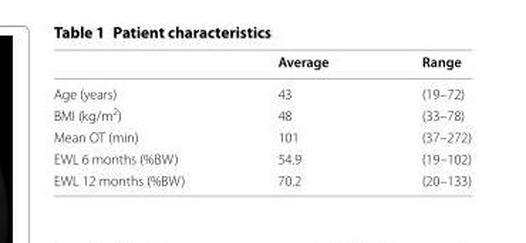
<table><thead><tr><td></td><td>Average</td><td>Range</td></tr></thead><tbody><tr><td>Age (years)</td><td>43</td><td>(19–72)</td></tr><tr><td>BMI (kg/m<sup>2</sup>)</td><td>48</td><td>(33–78)</td></tr><tr><td>Mean OT (min)</td><td>101</td><td>(37–272)</td></tr><tr><td>EWL 6 months (%BW)</td><td>54.9</td><td>(19–102)</td></tr><tr><td>EWL 12 months (%BW)</td><td>70.2</td><td>(20–133)</td></tr></tbody></table>